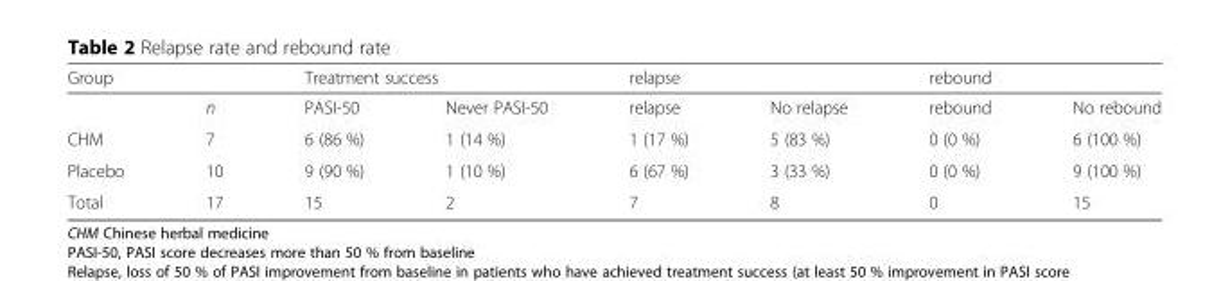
<table><thead><tr><td rowspan="2">Group</td><td rowspan="2">n</td><td colspan="2">Treatment success</td><td colspan="2">relapse</td><td colspan="2">rebound</td></tr><tr><td>PASI-50</td><td>Never PASI-50</td><td>relapse</td><td>No relapse</td><td>rebound</td><td>No rebound</td></tr></thead><tbody><tr><td>CHM</td><td>7</td><td>6 (86 %)</td><td>1 (14 %)</td><td>1 (17 %)</td><td>5 (83 %)</td><td>0 (0 %)</td><td>6 (100 %)</td></tr><tr><td>Placebo</td><td>10</td><td>9 (90 %)</td><td>1 (10 %)</td><td>6 (67 %)</td><td>3 (33 %)</td><td>0 (0 %)</td><td>9 (100 %)</td></tr><tr><td>Total</td><td>17</td><td>15</td><td>2</td><td>7</td><td>8</td><td>0</td><td>15</td></tr></tbody></table>